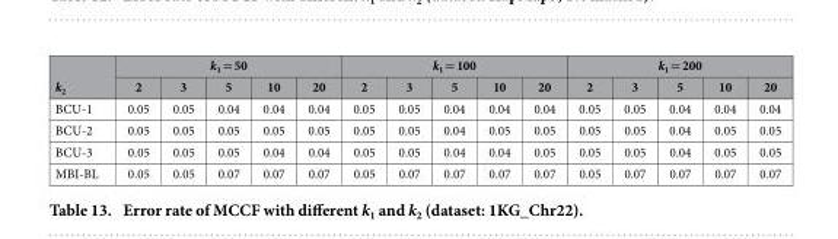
<table><thead><tr><td rowspan="2">k<sub>2</sub></td><td colspan="5">k<sub>1</sub> = 50</td><td colspan="5">k<sub>1</sub> = 100</td><td colspan="5">k<sub>1</sub> = 200</td></tr><tr><td>2</td><td>3</td><td>5</td><td>10</td><td>20</td><td>2</td><td>3</td><td>5</td><td>10</td><td>20</td><td>2</td><td>3</td><td>5</td><td>10</td><td>20</td></tr></thead><tbody><tr><td>BCU-1</td><td>0.05</td><td>0.05</td><td>0.04</td><td>0.04</td><td>0.04</td><td>0.05</td><td>0.05</td><td>0.04</td><td>0.04</td><td>0.04</td><td>0.05</td><td>0.05</td><td>0.04</td><td>0.04</td><td>0.04</td></tr><tr><td>BCU-2</td><td>0.05</td><td>0.05</td><td>0.05</td><td>0.05</td><td>0.05</td><td>0.05</td><td>0.05</td><td>0.04</td><td>0.05</td><td>0.05</td><td>0.05</td><td>0.05</td><td>0.04</td><td>0.05</td><td>0.05</td></tr><tr><td>BCU-3</td><td>0.05</td><td>0.05</td><td>0.05</td><td>0.04</td><td>0.04</td><td>0.05</td><td>0.05</td><td>0.04</td><td>0.04</td><td>0.05</td><td>0.05</td><td>0.05</td><td>0.04</td><td>0.05</td><td>0.05</td></tr><tr><td>MBI-BL</td><td>0.05</td><td>0.05</td><td>0.07</td><td>0.07</td><td>0.07</td><td>0.05</td><td>0.07</td><td>0.07</td><td>0.07</td><td>0.07</td><td>0.05</td><td>0.07</td><td>0.07</td><td>0.07</td><td>0.07</td></tr></tbody></table>